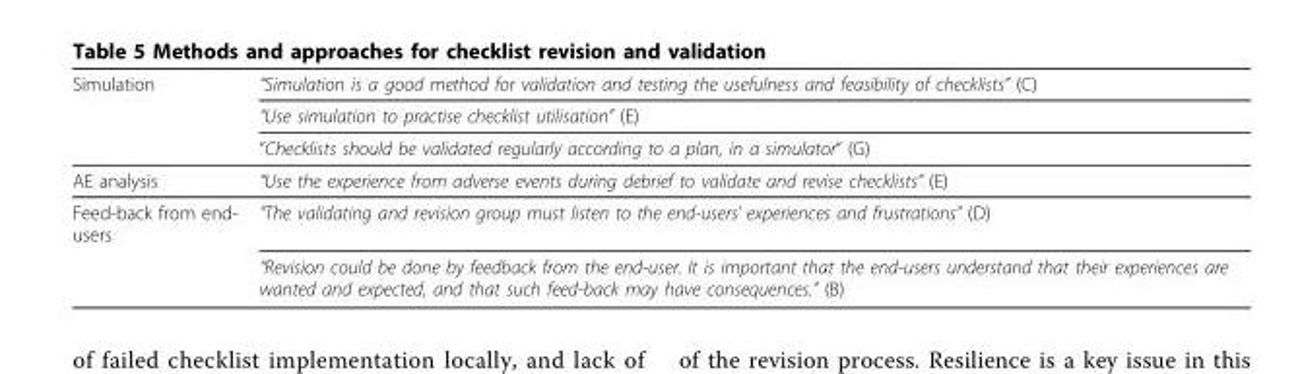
<table><thead><tr><td rowspan="3">Simulation</td><td rowspan="3">“Simulation is a good method for validation and testing the usefulness and feasibility of checklists” (C) “Use simulation to practise checklist utilisation” (E) “Checklists should be validated regularly according to a plan, in a simulator“ (G)</td></tr><tr></tr><tr></tr></thead><tbody><tr><td>AE analysis</td><td>“Use the experience from adverse events during debrief to validate and revise checklists” (E)</td></tr><tr><td rowspan="2">Feed-back from end- users</td><td>“The validating and revision group must listen to the end-users’ experiences and frustrations” (D)</td></tr><tr><td>“Revision could be done by feedback from the end-user. It is important that the end-users understand that their experiences are wanted and expected, and that such feed-back may have consequences.” (B)</td></tr></tbody></table>